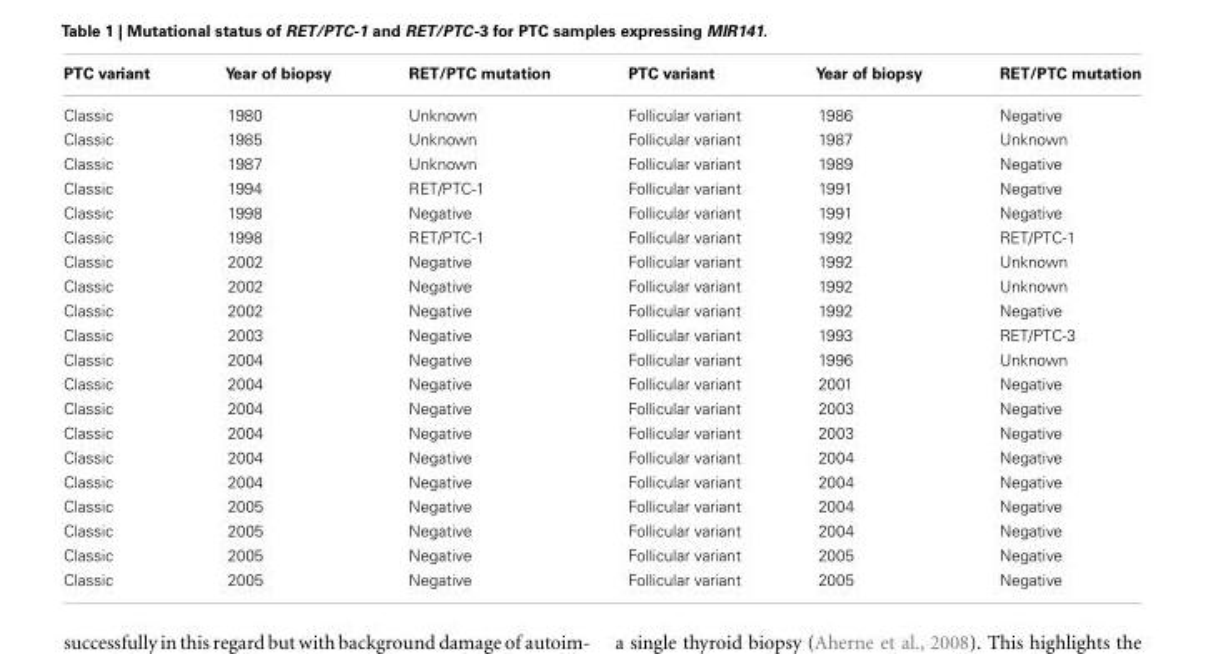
<table><thead><tr><td>PTC variant</td><td>Year of biopsy</td><td>RET/PTC mutation</td><td>PTC variant</td><td>Year of biopsy</td><td>RET/PTC mutation</td></tr></thead><tbody><tr><td>Classic</td><td>1980</td><td>Unknown</td><td>Follicular variant</td><td>1986</td><td>Negative</td></tr><tr><td>Classic</td><td>1985</td><td>Unknown</td><td>Follicular variant</td><td>1987</td><td>Unknown</td></tr><tr><td>Classic</td><td>1987</td><td>Unknown</td><td>Follicular variant</td><td>1989</td><td>Negative</td></tr><tr><td>Classic</td><td>1994</td><td>RET/PTC-1</td><td>Follicular variant</td><td>1991</td><td>Negative</td></tr><tr><td>Classic</td><td>1998</td><td>Negative</td><td>Follicular variant</td><td>1991</td><td>Negative</td></tr><tr><td>Classic</td><td>1998</td><td>RET/PTC-1</td><td>Follicular variant</td><td>1992</td><td>RET/PTC-1</td></tr><tr><td>Classic</td><td>2002</td><td>Negative</td><td>Follicular variant</td><td>1992</td><td>Unknown</td></tr><tr><td>Classic</td><td>2002</td><td>Negative</td><td>Follicular variant</td><td>1992</td><td>Unknown</td></tr><tr><td>Classic</td><td>2002</td><td>Negative</td><td>Follicular variant</td><td>1992</td><td>Negative</td></tr><tr><td>Classic</td><td>2003</td><td>Negative</td><td>Follicular variant</td><td>1993</td><td>RET/PTC-3</td></tr><tr><td>Classic</td><td>2004</td><td>Negative</td><td>Follicular variant</td><td>1996</td><td>Unknown</td></tr><tr><td>Classic</td><td>2004</td><td>Negative</td><td>Follicular variant</td><td>2001</td><td>Negative</td></tr><tr><td>Classic</td><td>2004</td><td>Negative</td><td>Follicular variant</td><td>2003</td><td>Negative</td></tr><tr><td>Classic</td><td>2004</td><td>Negative</td><td>Follicular variant</td><td>2003</td><td>Negative</td></tr><tr><td>Classic</td><td>2004</td><td>Negative</td><td>Follicular variant</td><td>2004</td><td>Negative</td></tr><tr><td>Classic</td><td>2004</td><td>Negative</td><td>Follicular variant</td><td>2004</td><td>Negative</td></tr><tr><td>Classic</td><td>2005</td><td>Negative</td><td>Follicular variant</td><td>2004</td><td>Negative</td></tr><tr><td>Classic</td><td>2005</td><td>Negative</td><td>Follicular variant</td><td>2004</td><td>Negative</td></tr><tr><td>Classic</td><td>2005</td><td>Negative</td><td>Follicular variant</td><td>2005</td><td>Negative</td></tr><tr><td>Classic</td><td>2005</td><td>Negative</td><td>Follicular variant</td><td>2005</td><td>Negative</td></tr></tbody></table>